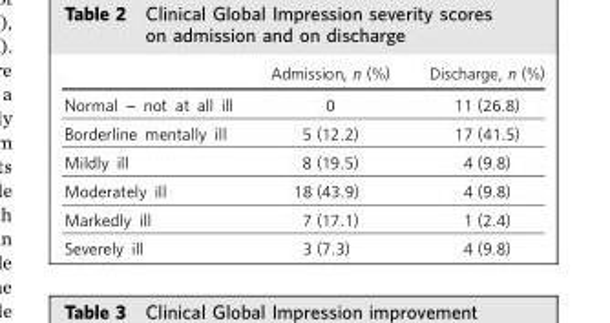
<table><thead><tr><td></td><td>Admission, n (%)</td><td>Discharge, n (%)</td></tr></thead><tbody><tr><td>Normal - not at all ill</td><td>0</td><td>11 (26.8)</td></tr><tr><td>Borderline mentally ill</td><td>5 (12.2)</td><td>17 (41.5)</td></tr><tr><td>Mildly ill</td><td>8 (19.5)</td><td>4 (9.8)</td></tr><tr><td>Moderately ill</td><td>18 (43.9)</td><td>4 (9.8)</td></tr><tr><td>Markedly ill</td><td>7 (17.1)</td><td>1 (2.4)</td></tr><tr><td>Severely ill</td><td>3 (7.3)</td><td>4 (9.8)</td></tr></tbody></table>